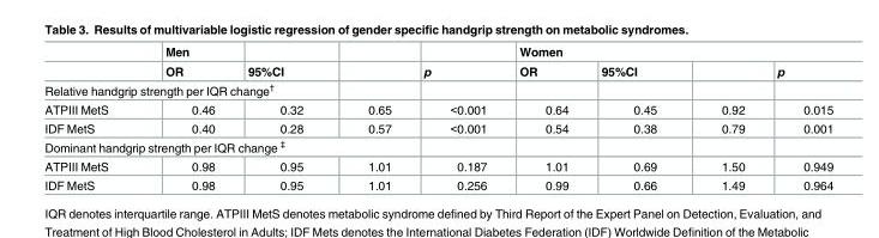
<table><thead><tr><td rowspan="2"></td><td rowspan="2">Men OR</td><td rowspan="2">95%CI</td><td rowspan="2"></td><td rowspan="2">p</td><td colspan="4">Women</td></tr><tr><td>OR</td><td>95%CI</td><td></td><td>p</td></tr></thead><tbody><tr><td colspan="9">Relative handgrip strength per IQR change<sup>†</sup></td></tr><tr><td>ATPIII MetS</td><td>0.46</td><td>0.32</td><td>0.65</td><td>&lt;0.001</td><td>0.64</td><td>0.45</td><td>0.92</td><td>0.015</td></tr><tr><td>IDF MetS</td><td>0.40</td><td>0.28</td><td>0.57</td><td>&lt;0.001</td><td>0.54</td><td>0.38</td><td>0.79</td><td>0.001</td></tr><tr><td colspan="9">Dominant handgrip strength per IQR change <sup>‡</sup></td></tr><tr><td>ATPIII MetS</td><td>0.98</td><td>0.95</td><td>1.01</td><td>0.187</td><td>1.01</td><td>0.69</td><td>1.50</td><td>0.949</td></tr><tr><td>IDF MetS</td><td>0.98</td><td>0.95</td><td>1.01</td><td>0.256</td><td>0.99</td><td>0.66</td><td>1.49</td><td>0.964</td></tr></tbody></table>